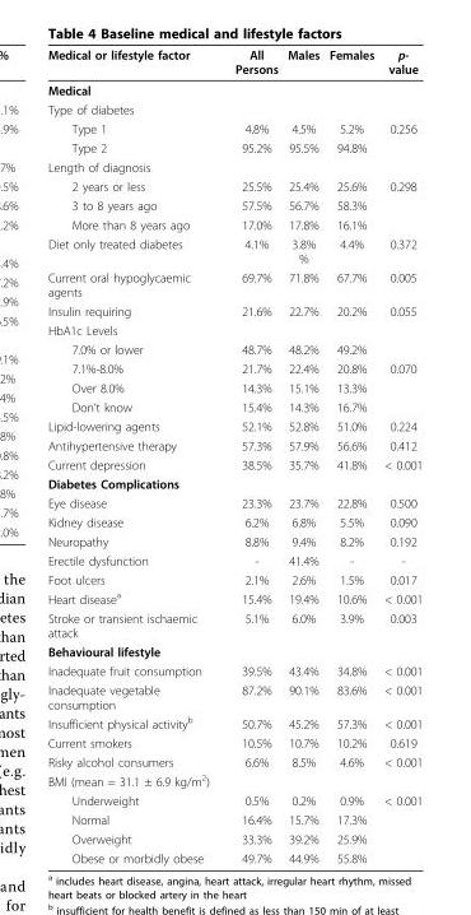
<table><thead><tr><td>Medical or lifestyle factor</td><td>All Persons</td><td>Males</td><td>Females</td><td>p- value</td></tr></thead><tbody><tr><td colspan="5">Medical</td></tr><tr><td colspan="5">Type of diabetes</td></tr><tr><td>Type 1</td><td>4.8%</td><td>4.5%</td><td>5.2%</td><td>0.256</td></tr><tr><td>Type 2</td><td>95.2%</td><td>95.5%</td><td>94.8%</td><td></td></tr><tr><td colspan="5">Length of diagnosis</td></tr><tr><td>2 years or less</td><td>25.5%</td><td>25.4%</td><td>25.6%</td><td>0.298</td></tr><tr><td>3 to 8 years ago</td><td>57.5%</td><td>56.7%</td><td>58.3%</td><td></td></tr><tr><td>More than 8 years ago</td><td>17.0%</td><td>17.8%</td><td>16.1%</td><td></td></tr><tr><td>Diet only treated diabetes</td><td>4.1%</td><td>3.8% %</td><td>4.4%</td><td>0.372</td></tr><tr><td>Current oral hypoglycaemic agents</td><td>69.7%</td><td>71.8%</td><td>67.7%</td><td>0.005</td></tr><tr><td>Insulin requiring</td><td>21.6%</td><td>22.7%</td><td>20.2%</td><td>0.055</td></tr><tr><td colspan="5">HbA1c Levels</td></tr><tr><td>7.0% or lower</td><td>48.7%</td><td>48.2%</td><td>49.2%</td><td></td></tr><tr><td>7.1%-8.0%</td><td>21.7%</td><td>22.4%</td><td>20.8%</td><td>0.070</td></tr><tr><td>Over 8.0%</td><td>14.3%</td><td>15.1%</td><td>13.3%</td><td></td></tr><tr><td>Don’t know</td><td>15.4%</td><td>14.3%</td><td>16.7%</td><td></td></tr><tr><td>Lipid-lowering agents</td><td>52.1%</td><td>52.8%</td><td>51.0%</td><td>0.224</td></tr><tr><td>Antihypertensive therapy</td><td>57.3%</td><td>57.9%</td><td>56.6%</td><td>0.412</td></tr><tr><td>Current depression</td><td>38.5%</td><td>35.7%</td><td>41.8%</td><td>&lt; 0.001</td></tr><tr><td colspan="5">Diabetes Complications</td></tr><tr><td>Eye disease</td><td>23.3%</td><td>23.7%</td><td>22.8%</td><td>0.500</td></tr><tr><td>Kidney disease</td><td>6.2%</td><td>6.8%</td><td>5.5%</td><td>0.090</td></tr><tr><td>Neuropathy</td><td>8.8%</td><td>9.4%</td><td>8.2%</td><td>0.192</td></tr><tr><td>Erectile dysfunction</td><td>-</td><td>41.4%</td><td>-</td><td>-</td></tr><tr><td>Foot ulcers</td><td>2.1%</td><td>2.6%</td><td>1.5%</td><td>0.017</td></tr><tr><td>Heart disease<sup>a</sup></td><td>15.4%</td><td>19.4%</td><td>10.6%</td><td>&lt; 0.001</td></tr><tr><td>Stroke or transient ischaemic attack</td><td>5.1%</td><td>6.0%</td><td>3.9%</td><td>0.003</td></tr><tr><td colspan="5">Behavioural lifestyle</td></tr><tr><td>Inadequate fruit consumption</td><td>39.5%</td><td>43.4%</td><td>34.8%</td><td>&lt; 0.001</td></tr><tr><td>Inadequate vegetable consumption</td><td>87.2%</td><td>90.1%</td><td>83.6%</td><td>&lt; 0.001</td></tr><tr><td>Insufficient physical activity<sup>b</sup></td><td>50.7%</td><td>45.2%</td><td>57.3%</td><td>&lt; 0.001</td></tr><tr><td>Current smokers</td><td>10.5%</td><td>10.7%</td><td>10.2%</td><td>0.619</td></tr><tr><td>Risky alcohol consumers</td><td>6.6%</td><td>8.5%</td><td>4.6%</td><td>&lt; 0.001</td></tr><tr><td colspan="5">BMI (mean = 31.1 ± 6.9 kg/m<sup>2</sup>)</td></tr><tr><td>Underweight</td><td>0.5%</td><td>0.2%</td><td>0.9%</td><td>&lt; 0.001</td></tr><tr><td>Normal</td><td>16.4%</td><td>15.7%</td><td>17.3%</td><td></td></tr><tr><td>Overweight</td><td>33.3%</td><td>39.2%</td><td>25.9%</td><td></td></tr><tr><td>Obese or morbidly obese</td><td>49.7%</td><td>44.9%</td><td>55.8%</td><td></td></tr></tbody></table>